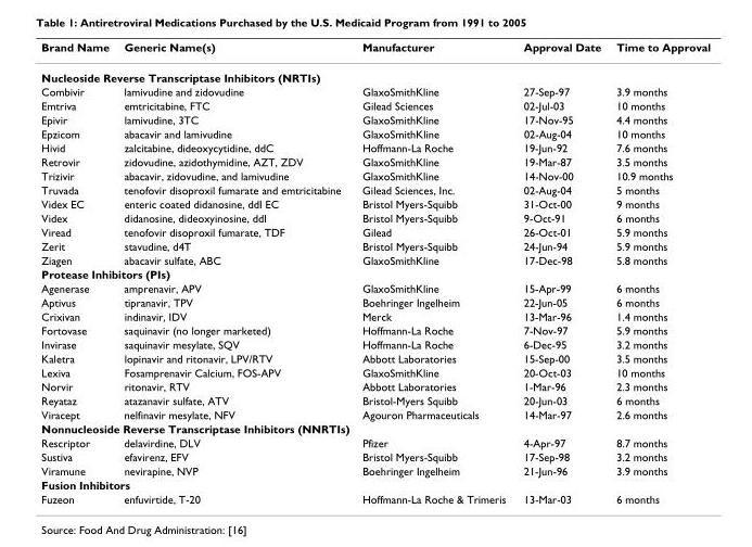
<table><thead><tr><td>Brand Name</td><td>Generic Name(s)</td><td>Manufacturer</td><td>Approval Date</td><td>Time to Approval</td></tr></thead><tbody><tr><td colspan="5">Nucleoside Reverse Transcriptase Inhibitors (NRTIs)</td></tr><tr><td>Combivir</td><td>lamivudine and zidovudine</td><td>GlaxoSmithKline</td><td>27-Sep-97</td><td>3.9 months</td></tr><tr><td>Emtriva</td><td>emtricitabine, FTC</td><td>Gilead Sciences</td><td>02-Jul-03</td><td>10 months</td></tr><tr><td>Epivir</td><td>lamivudine, 3TC</td><td>GlaxoSmithKline</td><td>17-Nov-95</td><td>4.4 months</td></tr><tr><td>Epzicom</td><td>abacavir and lamivudine</td><td>GlaxoSmithKline</td><td>02-Aug-04</td><td>10 months</td></tr><tr><td>Hivid</td><td>zalcitabine, dideoxycytidine, ddC</td><td>Hoffmann-La Roche</td><td>19-Jun-92</td><td>7.6 months</td></tr><tr><td>Retrovir</td><td>zidovudine, azidothymidine, AZT, ZDV</td><td>GlaxoSmithKline</td><td>19-Mar-87</td><td>3.5 months</td></tr><tr><td>Trizivir</td><td>abacavir, zidovudine, and lamivudine</td><td>GlaxoSmithKline</td><td>14-Nov-00</td><td>10.9 months</td></tr><tr><td>Truvada</td><td>tenofovir disoproxil fumarate and emtricitabine</td><td>Gilead Sciences, Inc.</td><td>02-Aug-04</td><td>5 months</td></tr><tr><td>Videx EC</td><td>enteric coated didanosine, ddI EC</td><td>Bristol Myers-Squibb</td><td>31-Oct-00</td><td>9 months</td></tr><tr><td>Videx</td><td>didanosine, dideoxyinosine, ddI</td><td>Bristol Myers-Squibb</td><td>9-Oct-91</td><td>6 months</td></tr><tr><td>Viread</td><td>tenofovir disoproxil fumarate, TDF</td><td>Gilead</td><td>26-Oct-01</td><td>5.9 months</td></tr><tr><td>Zerit</td><td>stavudine, d4T</td><td>Bristol Myers-Squibb</td><td>24-Jun-94</td><td>5.9 months</td></tr><tr><td>Ziagen</td><td>abacavir sulfate, ABC</td><td>GlaxoSmithKline</td><td>17-Dec-98</td><td>5.8 months</td></tr><tr><td colspan="5">Protease Inhibitors (PIs)</td></tr><tr><td>Agenerase</td><td>amprenavir, APV</td><td>GlaxoSmithKline</td><td>15-Apr-99</td><td>6 months</td></tr><tr><td>Aptivus</td><td>tipranavir, TPV</td><td>Boehringer Ingelheim</td><td>22-Jun-05</td><td>6 months</td></tr><tr><td>Crixivan</td><td>indinavir, IDV</td><td>Merck</td><td>13-Mar-96</td><td>1.4 months</td></tr><tr><td>Fortovase</td><td>saquinavir (no longer marketed)</td><td>Hoffmann-La Roche</td><td>7-Nov-97</td><td>5.9 months</td></tr><tr><td>Invirase</td><td>saquinavir mesylate, SQV</td><td>Hoffmann-La Roche</td><td>6-Dec-95</td><td>3.2 months</td></tr><tr><td>Kaletra</td><td>lopinavir and ritonavir, LPV/RTV</td><td>Abbott Laboratories</td><td>15-Sep-00</td><td>3.5 months</td></tr><tr><td>Lexiva</td><td>Fosamprenavir Calcium, FOS-APV</td><td>GlaxoSmithKline</td><td>20-Oct-03</td><td>10 months</td></tr><tr><td>Norvir</td><td>ritonavir, RTV</td><td>Abbott Laboratories</td><td>1-Mar-96</td><td>2.3 months</td></tr><tr><td>Reyataz</td><td>atazanavir sulfate, ATV</td><td>Bristol-Myers Squibb</td><td>20-Jun-03</td><td>6 months</td></tr><tr><td>Viracept</td><td>nelfinavir mesylate, NFV</td><td>Agouron Pharmaceuticals</td><td>14-Mar-97</td><td>2.6 months</td></tr><tr><td colspan="5">Nonnucleoside Reverse Transcriptase Inhibitors (NNRTIs)</td></tr><tr><td>Rescriptor</td><td>delavirdine, DLV</td><td>Pfizer</td><td>4-Apr-97</td><td>8.7 months</td></tr><tr><td>Sustiva</td><td>efavirenz, EFV</td><td>Bristol Myers-Squibb</td><td>17-Sep-98</td><td>3.2 months</td></tr><tr><td>Viramune</td><td>nevirapine, NVP</td><td>Boehringer Ingelheim</td><td>21-Jun-96</td><td>3.9 months</td></tr><tr><td colspan="5">Fusion Inhibitors</td></tr><tr><td>Fuzeon</td><td>enfuvirtide, T-20</td><td>Hoffmann-La Roche &amp; Trimeris</td><td>13-Mar-03</td><td>6 months</td></tr></tbody></table>